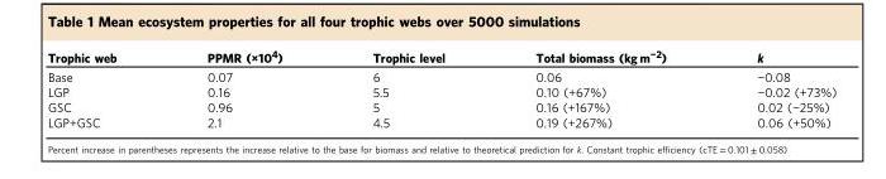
<table><thead><tr><td>Trophic web</td><td>PPMR (×10<sup>4</sup>)</td><td>Trophic level</td><td>Total biomass (kg m<sup>−2</sup>)</td><td>k</td></tr></thead><tbody><tr><td>Base</td><td>0.07</td><td>6</td><td>0.06</td><td>−0.08</td></tr><tr><td>LGP</td><td>0.16</td><td>5.5</td><td>0.10 (+67%)</td><td>−0.02 (+73%)</td></tr><tr><td>GSC</td><td>0.96</td><td>5</td><td>0.16 (+167%)</td><td>0.02 (−25%)</td></tr><tr><td>LGP+GSC</td><td>2.1</td><td>4.5</td><td>0.19 (+267%)</td><td>0.06 (+50%)</td></tr></tbody></table>